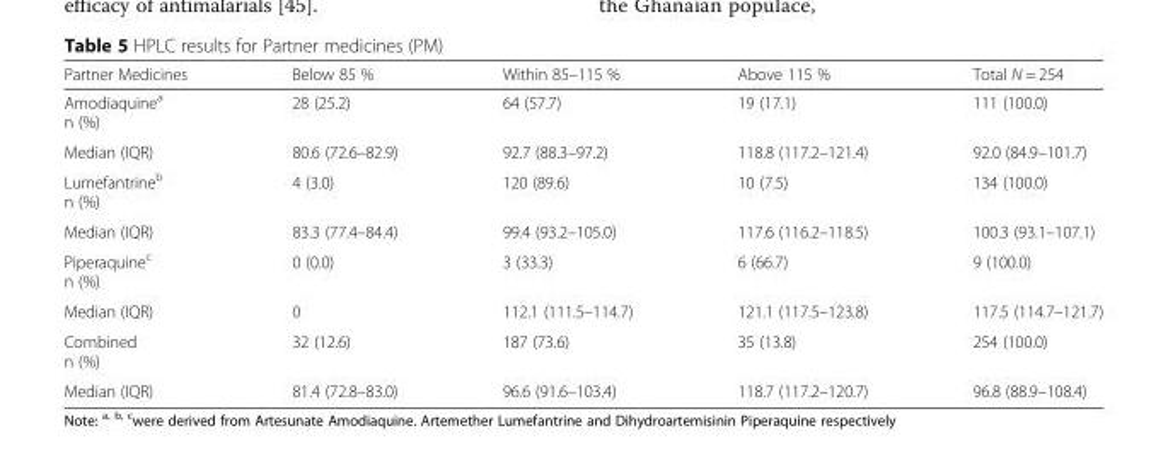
<table><thead><tr><td>Partner Medicines</td><td>Below 85 %</td><td>Within 85–115 %</td><td>Above 115 %</td><td>Total N = 254</td></tr></thead><tbody><tr><td>Amodiaquine<sup>a</sup> n (%)</td><td>28 (25.2)</td><td>64 (57.7)</td><td>19 (17.1)</td><td>111 (100.0)</td></tr><tr><td>Median (IQR)</td><td>80.6 (72.6–82.9)</td><td>92.7 (88.3–97.2)</td><td>118.8 (117.2–121.4)</td><td>92.0 (84.9–101.7)</td></tr><tr><td>Lumefantrine<sup>b</sup> n (%)</td><td>4 (3.0)</td><td>120 (89.6)</td><td>10 (7.5)</td><td>134 (100.0)</td></tr><tr><td>Median (IQR)</td><td>83.3 (77.4–84.4)</td><td>99.4 (93.2–105.0)</td><td>117.6 (116.2–118.5)</td><td>100.3 (93.1–107.1)</td></tr><tr><td>Piperaquine<sup>c</sup> n (%)</td><td>0 (0.0)</td><td>3 (33.3)</td><td>6 (66.7)</td><td>9 (100.0)</td></tr><tr><td>Median (IQR)</td><td>0</td><td>112.1 (111.5–114.7)</td><td>121.1 (117.5–123.8)</td><td>117.5 (114.7–121.7)</td></tr><tr><td>Combined n (%)</td><td>32 (12.6)</td><td>187 (73.6)</td><td>35 (13.8)</td><td>254 (100.0)</td></tr><tr><td>Median (IQR)</td><td>81.4 (72.8–83.0)</td><td>96.6 (91.6–103.4)</td><td>118.7 (117.2–120.7)</td><td>96.8 (88.9–108.4)</td></tr></tbody></table>